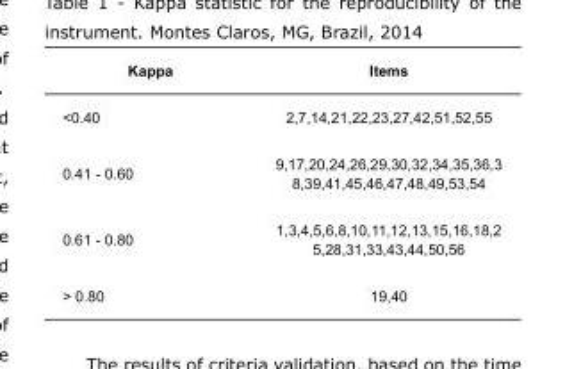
<table><tbody><tr><td>Kappa</td><td>Items</td></tr><tr><td>&lt;0.40</td><td>2,7,14,21,22,23,27,42,51,52,55</td></tr><tr><td>0.41 - 0.60</td><td>9,17,20,24,26,29,30,32,34,35,36,3 8,39,41,45,46,47,48,49,53,54</td></tr><tr><td>0.61 - 0.80</td><td>1,3,4,5,6,8,10,11,12,13,15,16,18,2 5,28,31,33,43,44,50,56</td></tr><tr><td>&gt; 0.80</td><td>19,40</td></tr></tbody></table>